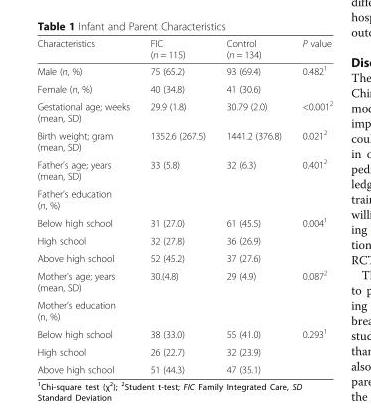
<table><thead><tr><td>Characteristics</td><td>FIC (n = 115)</td><td>Control (n = 134)</td><td>P value</td></tr></thead><tbody><tr><td>Male (n, %)</td><td>75 (65.2)</td><td>93 (69.4)</td><td rowspan="2">0.482<sup>1</sup></td></tr><tr><td>Female (n, %)</td><td>40 (34.8)</td><td>41 (30.6)</td></tr><tr><td>Gestational age; weeks (mean, SD)</td><td>29.9 (1.8)</td><td>30.79 (2.0)</td><td>&lt;0.001<sup>2</sup></td></tr><tr><td>Birth weight; gram (mean, SD)</td><td>1352.6 (267.5)</td><td>1441.2 (376.8)</td><td>0.021<sup>2</sup></td></tr><tr><td>Father’s age; years (mean, SD)</td><td>33 (5.8)</td><td>32 (6.3)</td><td>0.401<sup>2</sup></td></tr><tr><td colspan="4">Father’s education (n, %)</td></tr><tr><td>Below high school</td><td>31 (27.0)</td><td>61 (45.5)</td><td rowspan="3">0.004<sup>1</sup></td></tr><tr><td>High school</td><td>32 (27.8)</td><td>36 (26.9)</td></tr><tr><td>Above high school</td><td>52 (45.2)</td><td>37 (27.6)</td></tr><tr><td>Mother’s age; years (mean, SD)</td><td>30.(4.8)</td><td>29 (4.9)</td><td>0.087<sup>2</sup></td></tr><tr><td colspan="4">Mother’s education (n, %)</td></tr><tr><td>Below high school</td><td>38 (33.0)</td><td>55 (41.0)</td><td rowspan="3">0.293<sup>1</sup></td></tr><tr><td>High school</td><td>26 (22.7)</td><td>32 (23.9)</td></tr><tr><td>Above high school</td><td>51 (44.3)</td><td>47 (35.1)</td></tr></tbody></table>